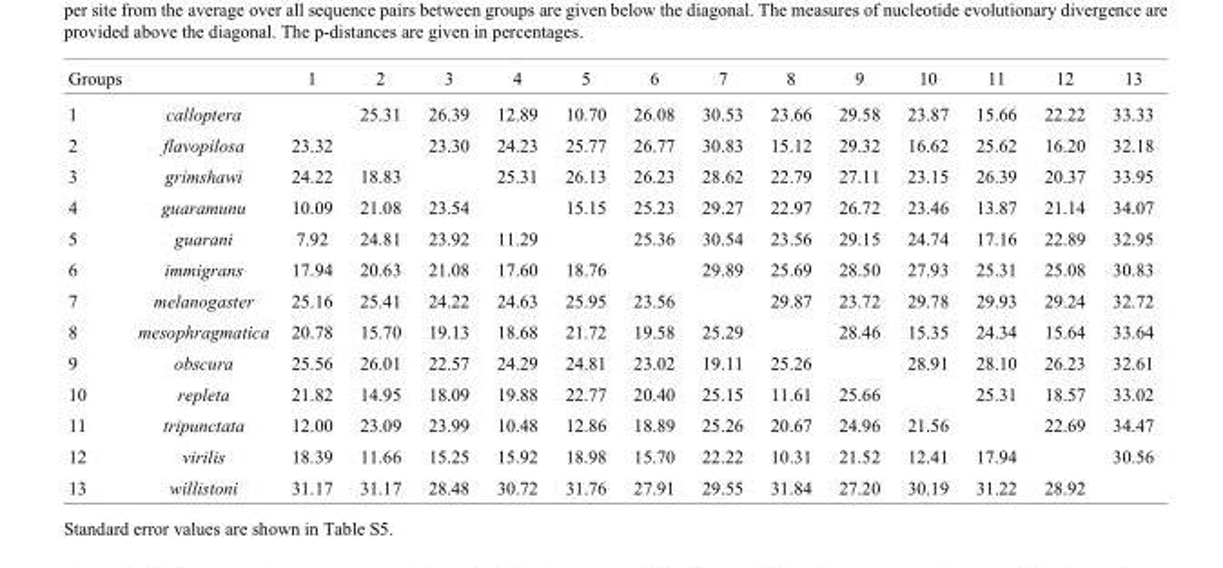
<table><thead><tr><td>Groups</td><td></td><td>1</td><td>2</td><td>3</td><td>4</td><td>5</td><td>6</td><td>7</td><td>8</td><td>9</td><td>10</td><td>11</td><td>12</td><td>13</td></tr></thead><tbody><tr><td>1</td><td>calloptera</td><td></td><td>25.31</td><td>26.39</td><td>12.89</td><td>10.70</td><td>26.08</td><td>30.53</td><td>23.66</td><td>29.58</td><td>23.87</td><td>15.66</td><td>22.22</td><td>33.33</td></tr><tr><td>2</td><td>flavopilosa</td><td>23.32</td><td></td><td>23.30</td><td>24.23</td><td>25.77</td><td>26.77</td><td>30.83</td><td>15.12</td><td>29.32</td><td>16.62</td><td>25.62</td><td>16.20</td><td>32.18</td></tr><tr><td>3</td><td>grimshawi</td><td>24.22</td><td>18.83</td><td></td><td>25.31</td><td>26.13</td><td>26.23</td><td>28.62</td><td>22.79</td><td>27.11</td><td>23.15</td><td>26.39</td><td>20.37</td><td>33.95</td></tr><tr><td>4</td><td>guaramunu</td><td>10.09</td><td>21.08</td><td>23.54</td><td></td><td>15.15</td><td>25.23</td><td>29.27</td><td>22.97</td><td>26.72</td><td>23.46</td><td>13.87</td><td>21.14</td><td>34.07</td></tr><tr><td>5</td><td>guarani</td><td>7.92</td><td>24.81</td><td>23.92</td><td>11.29</td><td></td><td>25.36</td><td>30.54</td><td>23.56</td><td>29.15</td><td>24.74</td><td>17.16</td><td>22.89</td><td>32.95</td></tr><tr><td>6</td><td>immigrans</td><td>17.94</td><td>20.63</td><td>21.08</td><td>17.60</td><td>18.76</td><td></td><td>29.89</td><td>25.69</td><td>28.50</td><td>27.93</td><td>25.31</td><td>25.08</td><td>30.83</td></tr><tr><td>7</td><td>melanogaster</td><td>25.16</td><td>25.41</td><td>24.22</td><td>24.63</td><td>25.95</td><td>23.56</td><td></td><td>29.87</td><td>23.72</td><td>29.78</td><td>29.93</td><td>29.24</td><td>32.72</td></tr><tr><td>8</td><td>mesophragmatica</td><td>20.78</td><td>15.70</td><td>19.13</td><td>18.68</td><td>21.72</td><td>19.58</td><td>25.29</td><td></td><td>28.46</td><td>15.35</td><td>24.34</td><td>15.64</td><td>33.64</td></tr><tr><td>9</td><td>obscura</td><td>25.56</td><td>26.01</td><td>22.57</td><td>24.29</td><td>24.81</td><td>23.02</td><td>19.11</td><td>25.26</td><td></td><td>28.91</td><td>28.10</td><td>26.23</td><td>32.61</td></tr><tr><td>10</td><td>repleta</td><td>21.82</td><td>14.95</td><td>18.09</td><td>19.88</td><td>22.77</td><td>20.40</td><td>25.15</td><td>11.61</td><td>25.66</td><td></td><td>25.31</td><td>18.57</td><td>33.02</td></tr><tr><td>11</td><td>tripunctata</td><td>12.00</td><td>23.09</td><td>23.99</td><td>10.48</td><td>12.86</td><td>18.89</td><td>25.26</td><td>20.67</td><td>24.96</td><td>21.56</td><td></td><td>22.69</td><td>34.47</td></tr><tr><td>12</td><td>virilis</td><td>18.39</td><td>11.66</td><td>15.25</td><td>15.92</td><td>18.98</td><td>15.70</td><td>22.22</td><td>10.31</td><td>21.52</td><td>12.41</td><td>17.94</td><td></td><td>30.56</td></tr><tr><td>13</td><td>willistoni</td><td>31.17</td><td>31.17</td><td>28.48</td><td>30.72</td><td>31.76</td><td>27.91</td><td>29.55</td><td>31.84</td><td>27.20</td><td>30.19</td><td>31.22</td><td>28.92</td><td></td></tr></tbody></table>